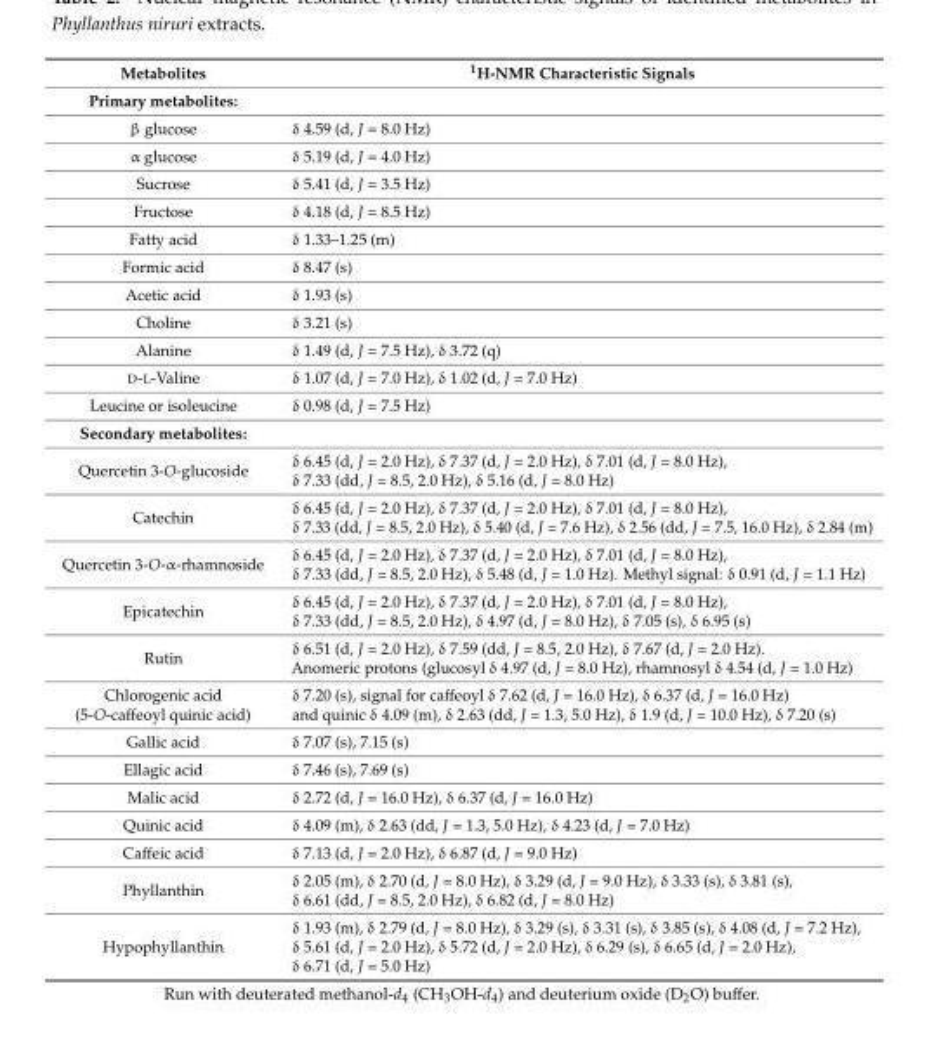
<table><thead><tr><td>Metabolites</td><td><sup>1</sup>H-NMR Characteristic Signals</td></tr></thead><tbody><tr><td colspan="2">Primary metabolites:</td></tr><tr><td>β glucose</td><td>δ 4.59 (d, J = 8.0 Hz)</td></tr><tr><td>α glucose</td><td>δ 5.19 (d, J = 4.0 Hz)</td></tr><tr><td>Sucrose</td><td>δ 5.41 (d, J = 3.5 Hz)</td></tr><tr><td>Fructose</td><td>δ 4.18 (d, J = 8.5 Hz)</td></tr><tr><td>Fatty acid</td><td>δ 1.33–1.25 (m)</td></tr><tr><td>Formic acid</td><td>δ 8.47 (s)</td></tr><tr><td>Acetic acid</td><td>δ 1.93 (s)</td></tr><tr><td>Choline</td><td>δ 3.21 (s)</td></tr><tr><td>Alanine</td><td>δ 1.49 (d, J = 7.5 Hz), δ 3.72 (q)</td></tr><tr><td>D-L-Valine</td><td>δ 1.07 (d, J = 7.0 Hz), δ 1.02 (d, J = 7.0 Hz)</td></tr><tr><td>Leucine or isoleucine</td><td>δ 0.98 (d, J = 7.5 Hz)</td></tr><tr><td colspan="2">Secondary metabolites:</td></tr><tr><td>Quercetin 3-O-glucoside</td><td>δ 6.45 (d, J = 2.0 Hz), δ 7.37 (d, J = 2.0 Hz), δ 7.01 (d, J = 8.0 Hz), δ 7.33 (dd, J = 8.5, 2.0 Hz), δ 5.16 (d, J = 8.0 Hz)</td></tr><tr><td>Catechin</td><td>δ 6.45 (d, J = 2.0 Hz), δ 7.37 (d, J = 2.0 Hz), δ 7.01 (d, J = 8.0 Hz), δ 7.33 (dd, J = 8.5, 2.0 Hz), δ 5.40 (d, J = 7.6 Hz), δ 2.56 (dd, J = 7.5, 16.0 Hz), δ 2.84 (m)</td></tr><tr><td>Quercetin 3-O-α-rhamnoside</td><td>δ 6.45 (d, J = 2.0 Hz), δ 7.37 (d, J = 2.0 Hz), δ 7.01 (d, J = 8.0 Hz), δ 7.33 (dd, J = 8.5, 2.0 Hz), δ 5.48 (d, J = 1.0 Hz). Methyl signal: δ 0.91 (d, J = 1.1 Hz)</td></tr><tr><td>Epicatechin</td><td>δ 6.45 (d, J = 2.0 Hz), δ 7.37 (d, J = 2.0 Hz), δ 7.01 (d, J = 8.0 Hz), δ 7.33 (dd, J = 8.5, 2.0 Hz), δ 4.97 (d, J = 8.0 Hz), δ 7.05 (s), δ 6.95 (s)</td></tr><tr><td>Rutin</td><td>δ 6.51 (d, J = 2.0 Hz), δ 7.59 (dd, J = 8.5, 2.0 Hz), δ 7.67 (d, J = 2.0 Hz). Anomeric protons (glucosyl δ 4.97 (d, J = 8.0 Hz), rhamnosyl δ 4.54 (d, J = 1.0 Hz)</td></tr><tr><td>Chlorogenic acid (5-O-caffeoyl quinic acid)</td><td>δ 7.20 (s), signal for caffeoyl δ 7.62 (d, J = 16.0 Hz), δ 6.37 (d, J = 16.0 Hz) and quinic δ 4.09 (m), δ 2.63 (dd, J = 1.3, 5.0 Hz), δ 1.9 (d, J = 10.0 Hz), δ 7.20 (s)</td></tr><tr><td>Gallic acid</td><td>δ 7.07 (s), 7.15 (s)</td></tr><tr><td>Ellagic acid</td><td>δ 7.46 (s), 7.69 (s)</td></tr><tr><td>Malic acid</td><td>δ 2.72 (d, J = 16.0 Hz), δ 6.37 (d, J = 16.0 Hz)</td></tr><tr><td>Quinic acid</td><td>δ 4.09 (m), δ 2.63 (dd, J = 1.3, 5.0 Hz), δ 4.23 (d, J = 7.0 Hz)</td></tr><tr><td>Caffeic acid</td><td>δ 7.13 (d, J = 2.0 Hz), δ 6.87 (d, J = 9.0 Hz)</td></tr><tr><td>Phyllanthin</td><td>δ 2.05 (m), δ 2.70 (d, J = 8.0 Hz), δ 3.29 (d, J = 9.0 Hz), δ 3.33 (s), δ 3.81 (s), δ 6.61 (dd, J = 8.5, 2.0 Hz), δ 6.82 (d, J = 8.0 Hz)</td></tr><tr><td>Hypophyllanthin</td><td>δ 1.93 (m), δ 2.79 (d, J = 8.0 Hz), δ 3.29 (s), δ 3.31 (s), δ 3.85 (s), δ 4.08 (d, J = 7.2 Hz), δ 5.61 (d, J = 2.0 Hz), δ 5.72 (d, J = 2.0 Hz), δ 6.29 (s), δ 6.65 (d, J = 2.0 Hz), δ 6.71 (d, J = 5.0 Hz)</td></tr></tbody></table>